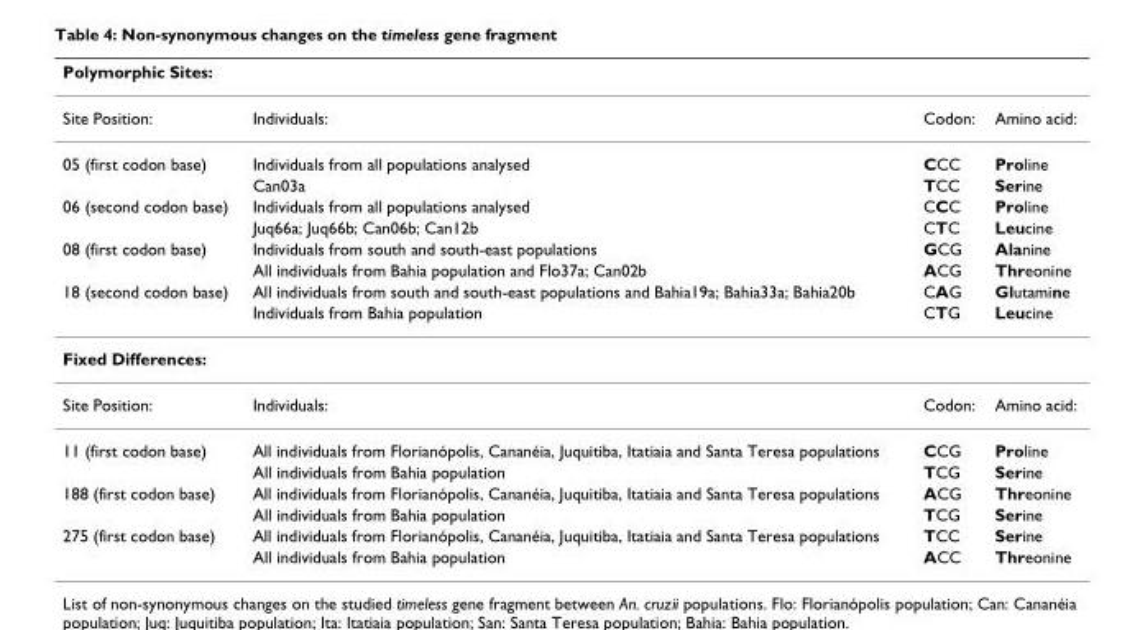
<table><thead><tr><td>Polymorphic Sites:</td><td></td><td></td><td></td></tr></thead><tbody><tr><td>Site Position:</td><td>Individuals:</td><td>Codon:</td><td>Amino acid:</td></tr><tr><td rowspan="2">05 (first codon base)</td><td>Individuals from all populations analysed</td><td>CCC</td><td>Proline</td></tr><tr><td>Can03a</td><td>TCC</td><td>Serine</td></tr><tr><td rowspan="2">06 (second codon base)</td><td>Individuals from all populations analysed</td><td>CCC</td><td>Proline</td></tr><tr><td>Juq66a; Juq66b; Can06b; Can12b</td><td>CTC</td><td>Leucine</td></tr><tr><td rowspan="2">08 (first codon base)</td><td>Individuals from south and south-east populations</td><td>GCG</td><td>Alanine</td></tr><tr><td>All individuals from Bahia population and Flo37a; Can02b</td><td>ACG</td><td>Threonine</td></tr><tr><td rowspan="2">18 (second codon base)</td><td>All individuals from south and south-east populations and Bahia19a; Bahia33a; Bahia20b</td><td>CAG</td><td>Glutamine</td></tr><tr><td>Individuals from Bahia population</td><td>CTG</td><td>Leucine</td></tr><tr><td colspan="4">Fixed Differences:</td></tr><tr><td>Site Position:</td><td>Individuals:</td><td>Codon:</td><td>Amino acid:</td></tr><tr><td rowspan="2">11 (first codon base)</td><td>All individuals from Florianópolis, Cananéia, Juquitiba, Itatiaia and Santa Teresa populations</td><td>CCG</td><td>Proline</td></tr><tr><td>All individuals from Bahia population</td><td>TCG</td><td>Serine</td></tr><tr><td rowspan="2">188 (first codon base)</td><td>All individuals from Florianópolis, Cananéia, Juquitiba, Itatiaia and Santa Teresa populations</td><td>ACG</td><td>Threonine</td></tr><tr><td>All individuals from Bahia population</td><td>TCG</td><td>Serine</td></tr><tr><td rowspan="2">275 (first codon base)</td><td>All individuals from Florianópolis, Cananéia, Juquitiba, Itatiaia and Santa Teresa populations</td><td>TCC</td><td>Serine</td></tr><tr><td>All individuals from Bahia population</td><td>ACC</td><td>Threonine</td></tr></tbody></table>